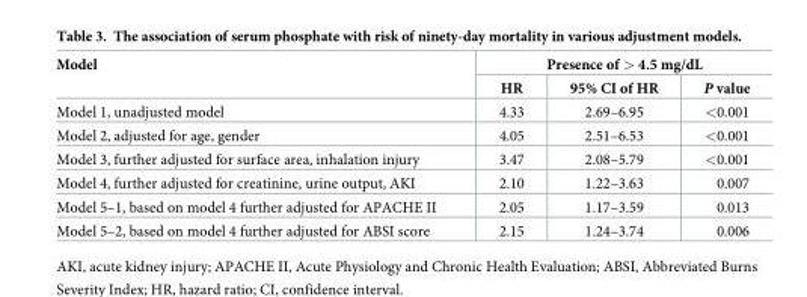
<table><thead><tr><td rowspan="2">Model</td><td colspan="3">Presence of &gt; 4.5 mg/dL</td></tr><tr><td>HR</td><td>95% CI of HR</td><td>P value</td></tr></thead><tbody><tr><td>Model 1, unadjusted model</td><td>4.33</td><td>2.69–6.95</td><td>&lt;0.001</td></tr><tr><td>Model 2, adjusted for age, gender</td><td>4.05</td><td>2.51–6.53</td><td>&lt;0.001</td></tr><tr><td>Model 3, further adjusted for surface area, inhalation injury</td><td>3.47</td><td>2.08–5.79</td><td>&lt;0.001</td></tr><tr><td>Model 4, further adjusted for creatinine, urine output, AKI</td><td>2.10</td><td>1.22–3.63</td><td>0.007</td></tr><tr><td>Model 5–1, based on model 4 further adjusted for APACHE II</td><td>2.05</td><td>1.17–3.59</td><td>0.013</td></tr><tr><td>Model 5–2, based on model 4 further adjusted for ABSI score</td><td>2.15</td><td>1.24–3.74</td><td>0.006</td></tr></tbody></table>